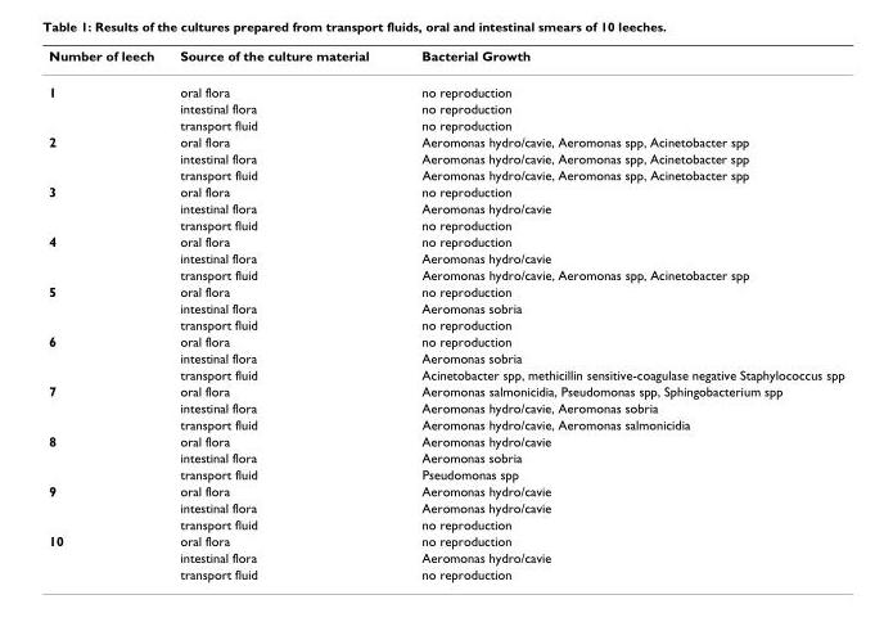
<table><thead><tr><td>Number of leech</td><td>Source of the culture material</td><td>Bacterial Growth</td></tr></thead><tbody><tr><td rowspan="3">1</td><td>oral flora</td><td>no reproduction</td></tr><tr><td>intestinal flora</td><td>no reproduction</td></tr><tr><td>transport fluid</td><td>no reproduction</td></tr><tr><td rowspan="3">2</td><td>oral flora</td><td>Aeromonas hydro/cavie, Aeromonas spp, Acinetobacter spp</td></tr><tr><td>intestinal flora</td><td>Aeromonas hydro/cavie, Aeromonas spp, Acinetobacter spp</td></tr><tr><td>transport fluid</td><td>Aeromonas hydro/cavie, Aeromonas spp, Acinetobacter spp</td></tr><tr><td rowspan="3">3</td><td>oral flora</td><td>no reproduction</td></tr><tr><td>intestinal flora</td><td>Aeromonas hydro/cavie</td></tr><tr><td>transport fluid</td><td>no reproduction</td></tr><tr><td rowspan="3">4</td><td>oral flora</td><td>no reproduction</td></tr><tr><td>intestinal flora</td><td>Aeromonas hydro/cavie</td></tr><tr><td>transport fluid</td><td>Aeromonas hydro/cavie, Aeromonas spp, Acinetobacter spp</td></tr><tr><td rowspan="3">5</td><td>oral flora</td><td>no reproduction</td></tr><tr><td>intestinal flora</td><td>Aeromonas sobria</td></tr><tr><td>transport fluid</td><td>no reproduction</td></tr><tr><td rowspan="3">6</td><td>oral flora</td><td>no reproduction</td></tr><tr><td>intestinal flora</td><td>Aeromonas sobria</td></tr><tr><td>transport fluid</td><td>Acinetobacter spp, methicillin sensitive-coagulase negative Staphylococcus spp</td></tr><tr><td rowspan="3">7</td><td>oral flora</td><td>Aeromonas salmonicidia, Pseudomonas spp, Sphingobacterium spp</td></tr><tr><td>intestinal flora</td><td>Aeromonas hydro/cavie, Aeromonas sobria</td></tr><tr><td>transport fluid</td><td>Aeromonas hydro/cavie, Aeromonas salmonicidia</td></tr><tr><td rowspan="3">8</td><td>oral flora</td><td>Aeromonas hydro/cavie</td></tr><tr><td>intestinal flora</td><td>Aeromonas sobria</td></tr><tr><td>transport fluid</td><td>Pseudomonas spp</td></tr><tr><td rowspan="3">9</td><td>oral flora</td><td>Aeromonas hydro/cavie</td></tr><tr><td>intestinal flora</td><td>Aeromonas hydro/cavie</td></tr><tr><td>transport fluid</td><td>no reproduction</td></tr><tr><td rowspan="3">10</td><td>oral flora</td><td>no reproduction</td></tr><tr><td>intestinal flora</td><td>Aeromonas hydro/cavie</td></tr><tr><td>transport fluid</td><td>no reproduction</td></tr></tbody></table>